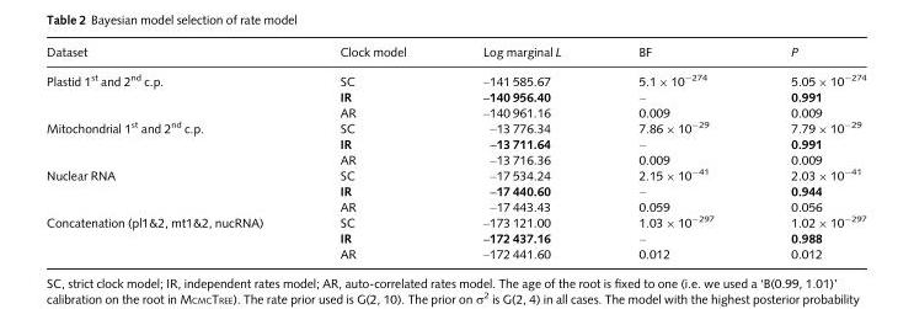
<table><thead><tr><td>Dataset</td><td>Clock model</td><td>Log marginal L</td><td>BF</td><td>P</td></tr></thead><tbody><tr><td rowspan="3">Plastid 1<sup>st</sup> and 2<sup>nd</sup> c.p.</td><td>SC</td><td>–141 585.67</td><td>5.1 × 10<sup>−274</sup></td><td>5.05 × 10<sup>−274</sup></td></tr><tr><td>IR</td><td>–140 956.40</td><td>–</td><td>0.991</td></tr><tr><td>AR</td><td>–140 961.16</td><td>0.009</td><td>0.009</td></tr><tr><td rowspan="3">Mitochondrial 1<sup>st</sup> and 2<sup>nd</sup> c.p.</td><td>SC</td><td>–13 776.34</td><td>7.86 × 10<sup>−29</sup></td><td>7.79 × 10<sup>−29</sup></td></tr><tr><td>IR</td><td>–13 711.64</td><td>–</td><td>0.991</td></tr><tr><td>AR</td><td>–13 716.36</td><td>0.009</td><td>0.009</td></tr><tr><td rowspan="3">Nuclear RNA</td><td>SC</td><td>–17 534.24</td><td>2.15 × 10<sup>−41</sup></td><td>2.03 × 10<sup>−41</sup></td></tr><tr><td>IR</td><td>–17 440.60</td><td>–</td><td>0.944</td></tr><tr><td>AR</td><td>–17 443.43</td><td>0.059</td><td>0.056</td></tr><tr><td rowspan="3">Concatenation (pl1&amp;2, mt1&amp;2, nucRNA)</td><td>SC</td><td>–173 121.00</td><td>1.03 × 10<sup>−297</sup></td><td>1.02 × 10<sup>−297</sup></td></tr><tr><td>IR</td><td>–172 437.16</td><td>–</td><td>0.988</td></tr><tr><td>AR</td><td>–172 441.60</td><td>0.012</td><td>0.012</td></tr></tbody></table>